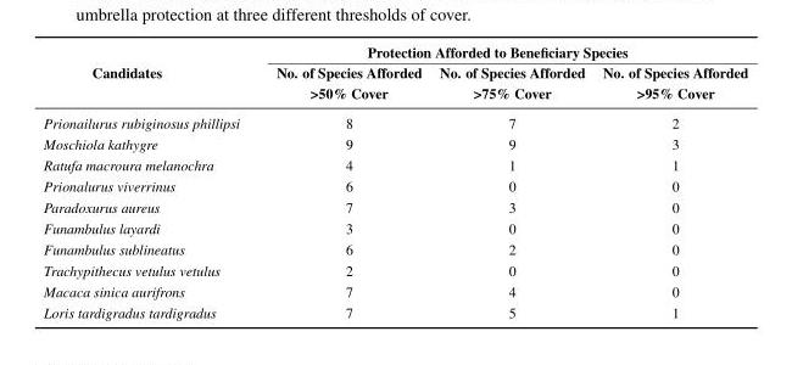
<table><thead><tr><td rowspan="2">Candidates</td><td colspan="3">Protection Afforded to Beneficiary Species</td></tr><tr><td>No. of Species Afforded &gt;50% Cover</td><td>No. of Species Afforded &gt;75% Cover</td><td>No. of Species Afforded &gt;95% Cover</td></tr></thead><tbody><tr><td>Prionailurus rubiginosus phillipsi</td><td>8</td><td>7</td><td>2</td></tr><tr><td>Moschiola kathygre</td><td>9</td><td>9</td><td>3</td></tr><tr><td>Ratufa macroura melanochra</td><td>4</td><td>1</td><td>1</td></tr><tr><td>Prionalurus viverrinus</td><td>6</td><td>0</td><td>0</td></tr><tr><td>Paradoxurus aureus</td><td>7</td><td>3</td><td>0</td></tr><tr><td>Funambulus layardi</td><td>3</td><td>0</td><td>0</td></tr><tr><td>Funambulus sublineatus</td><td>6</td><td>2</td><td>0</td></tr><tr><td>Trachypithecus vetulus vetulus</td><td>2</td><td>0</td><td>0</td></tr><tr><td>Macaca sinica aurifrons</td><td>7</td><td>4</td><td>0</td></tr><tr><td>Loris tardigradus tardigradus</td><td>7</td><td>5</td><td>1</td></tr></tbody></table>